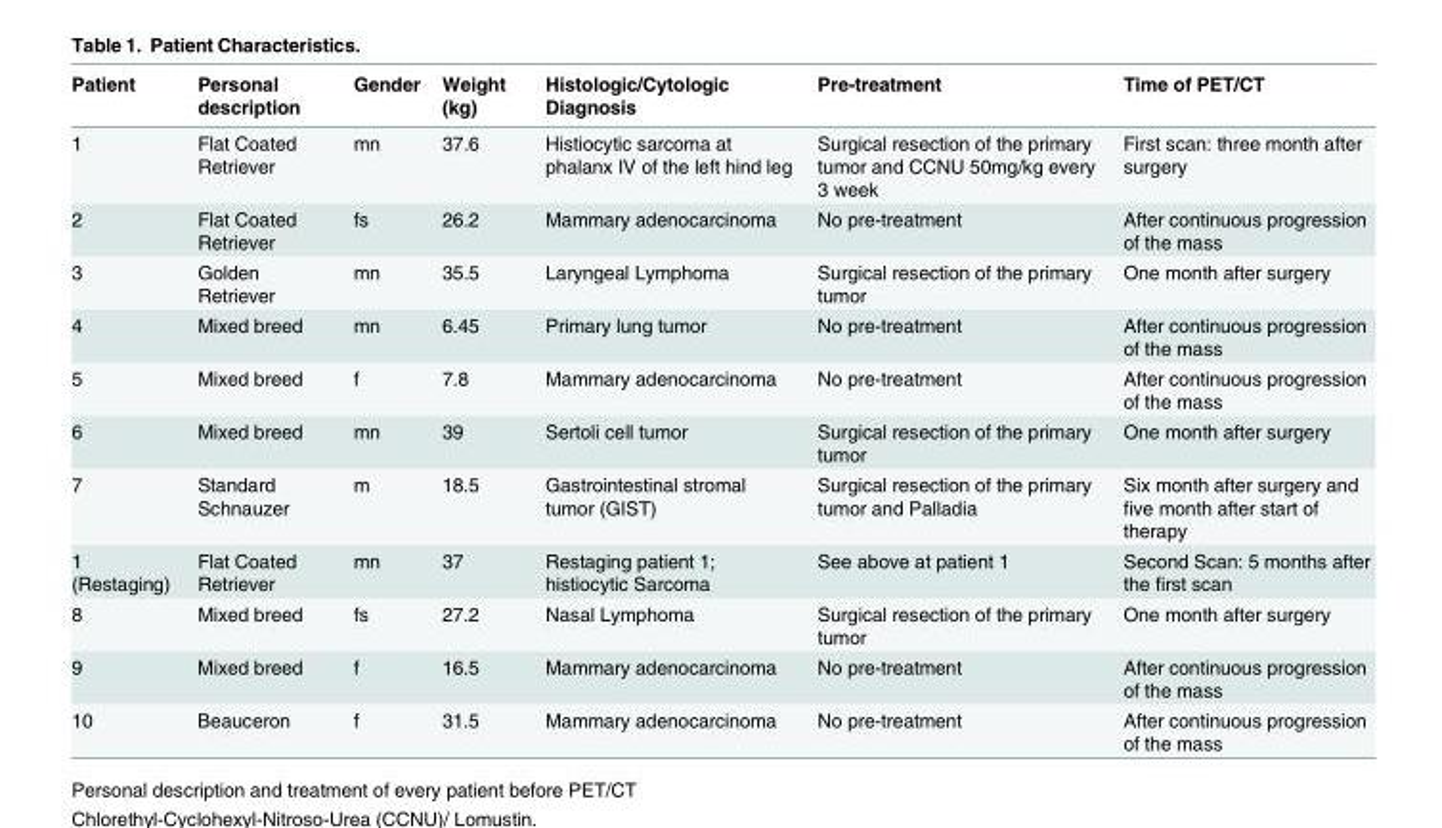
<table><thead><tr><td>Patient</td><td>Personal description</td><td>Gender</td><td>Weight (kg)</td><td>Histologic/Cytologic Diagnosis</td><td>Pre-treatment</td><td>Time of PET/CT</td></tr></thead><tbody><tr><td>1</td><td>Flat Coated Retriever</td><td>mn</td><td>37.6</td><td>Histiocytic sarcoma at phalanx IV of the left hind leg</td><td>Surgical resection of the primary tumor and CCNU 50mg/kg every 3 week</td><td>First scan: three month after surgery</td></tr><tr><td>2</td><td>Flat Coated Retriever</td><td>fs</td><td>26.2</td><td>Mammary adenocarcinoma</td><td>No pre-treatment</td><td>After continuous progression of the mass</td></tr><tr><td>3</td><td>Golden Retriever</td><td>mn</td><td>35.5</td><td>Laryngeal Lymphoma</td><td>Surgical resection of the primary tumor</td><td>One month after surgery</td></tr><tr><td>4</td><td>Mixed breed</td><td>mn</td><td>6.45</td><td>Primary lung tumor</td><td>No pre-treatment</td><td>After continuous progression of the mass</td></tr><tr><td>5</td><td>Mixed breed</td><td>f</td><td>7.8</td><td>Mammary adenocarcinoma</td><td>No pre-treatment</td><td>After continuous progression of the mass</td></tr><tr><td>6</td><td>Mixed breed</td><td>mn</td><td>39</td><td>Sertoli cell tumor</td><td>Surgical resection of the primary tumor</td><td>One month after surgery</td></tr><tr><td>7</td><td>Standard Schnauzer</td><td>m</td><td>18.5</td><td>Gastrointestinal stromal tumor (GIST)</td><td>Surgical resection of the primary tumor and Palladia</td><td>Six month after surgery and five month after start of therapy</td></tr><tr><td>1 (Restaging)</td><td>Flat Coated Retriever</td><td>mn</td><td>37</td><td>Restaging patient 1; histiocytic Sarcoma</td><td>See above at patient 1</td><td>Second Scan: 5 months after the first scan</td></tr><tr><td>8</td><td>Mixed breed</td><td>fs</td><td>27.2</td><td>Nasal Lymphoma</td><td>Surgical resection of the primary tumor</td><td>One month after surgery</td></tr><tr><td>9</td><td>Mixed breed</td><td>f</td><td>16.5</td><td>Mammary adenocarcinoma</td><td>No pre-treatment</td><td>After continuous progression of the mass</td></tr><tr><td>10</td><td>Beauceron</td><td>f</td><td>31.5</td><td>Mammary adenocarcinoma</td><td>No pre-treatment</td><td>After continuous progression of the mass</td></tr></tbody></table>